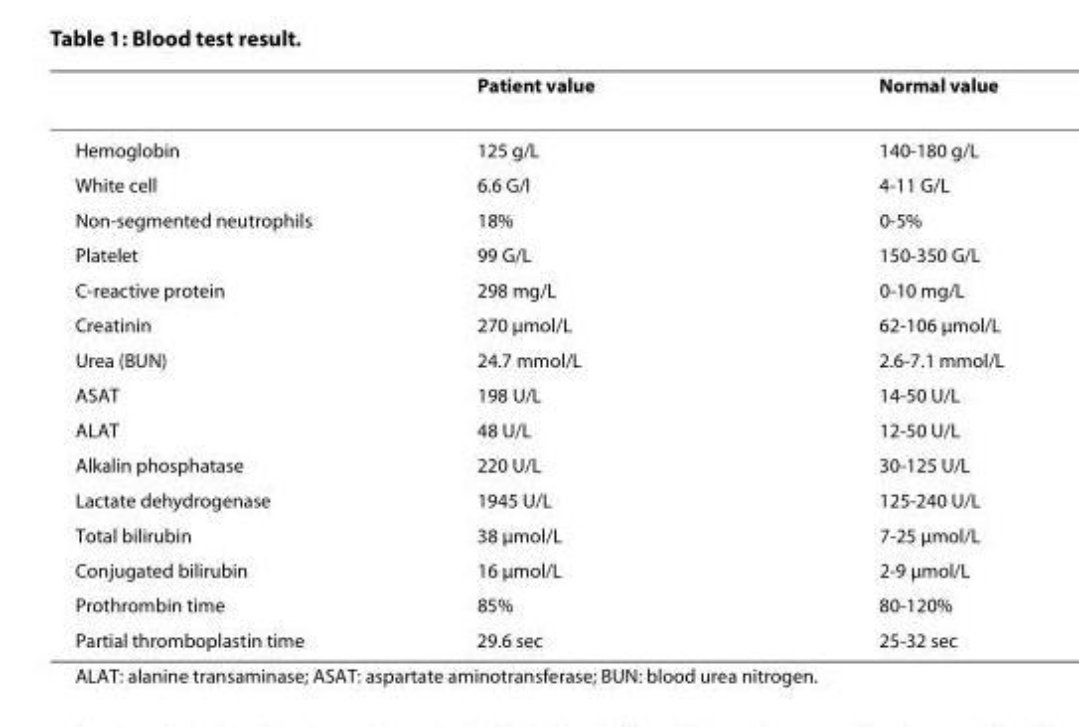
<table><thead><tr><td></td><td>Patient value</td><td>Normal value</td></tr></thead><tbody><tr><td>Hemoglobin</td><td>125 g/L</td><td>140-180 g/L</td></tr><tr><td>White cell</td><td>6.6 G/l</td><td>4-11 G/L</td></tr><tr><td>Non-segmented neutrophils</td><td>18%</td><td>0-5%</td></tr><tr><td>Platelet</td><td>99 G/L</td><td>150-350 G/L</td></tr><tr><td>C-reactive protein</td><td>298 mg/L</td><td>0-10 mg/L</td></tr><tr><td>Creatinin</td><td>270 μmol/L</td><td>62-106 μmol/L</td></tr><tr><td>Urea (BUN)</td><td>24.7 mmol/L</td><td>2.6-7.1 mmol/L</td></tr><tr><td>ASAT</td><td>198 U/L</td><td>14-50 U/L</td></tr><tr><td>ALAT</td><td>48 U/L</td><td>12-50 U/L</td></tr><tr><td>Alkalin phosphatase</td><td>220 U/L</td><td>30-125 U/L</td></tr><tr><td>Lactate dehydrogenase</td><td>1945 U/L</td><td>125-240 U/L</td></tr><tr><td>Total bilirubin</td><td>38 μmol/L</td><td>7-25 μmol/L</td></tr><tr><td>Conjugated bilirubin</td><td>16 μmol/L</td><td>2-9 μmol/L</td></tr><tr><td>Prothrombin time</td><td>85%</td><td>80-120%</td></tr><tr><td>Partial thromboplastin time</td><td>29.6 sec</td><td>25-32 sec</td></tr></tbody></table>